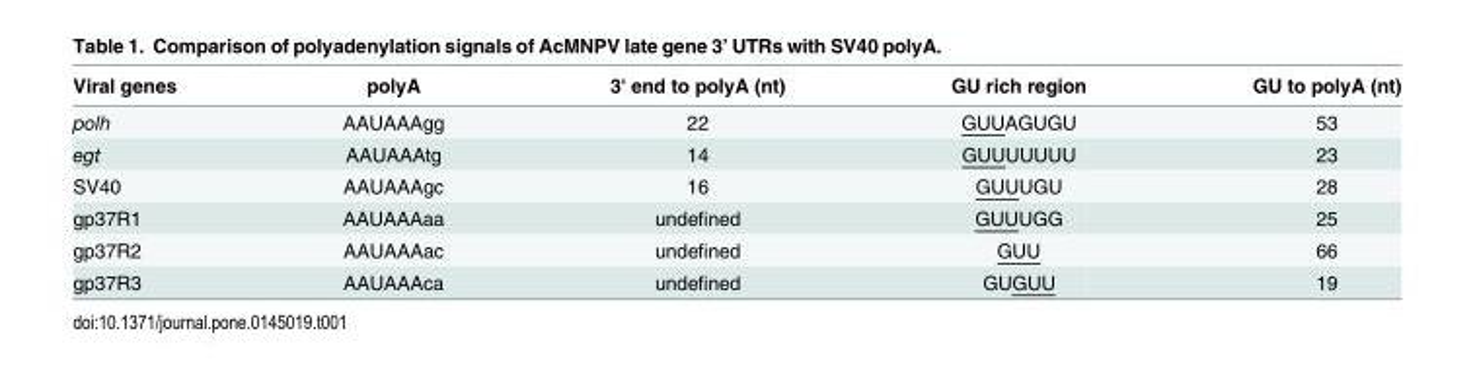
<table><thead><tr><td>Viral genes</td><td>polyA</td><td>3&#x27; end to polyA (nt)</td><td>GU rich region</td><td>GU to polyA (nt)</td></tr></thead><tbody><tr><td>polh</td><td>AAUAAAgg</td><td>22</td><td>GUUAGUGU</td><td>53</td></tr><tr><td>egt</td><td>AAUAAAtg</td><td>14</td><td>GUUUUUUU</td><td>23</td></tr><tr><td>SV40</td><td>AAUAAAgc</td><td>16</td><td>GUUUGU</td><td>28</td></tr><tr><td>gp37R1</td><td>AAUAAAaa</td><td>undefined</td><td>GUUUGG</td><td>25</td></tr><tr><td>gp37R2</td><td>AAUAAAac</td><td>undefined</td><td>GUU</td><td>66</td></tr><tr><td>gp37R3</td><td>AAUAAAca</td><td>undefined</td><td>GUGUU</td><td>19</td></tr></tbody></table>